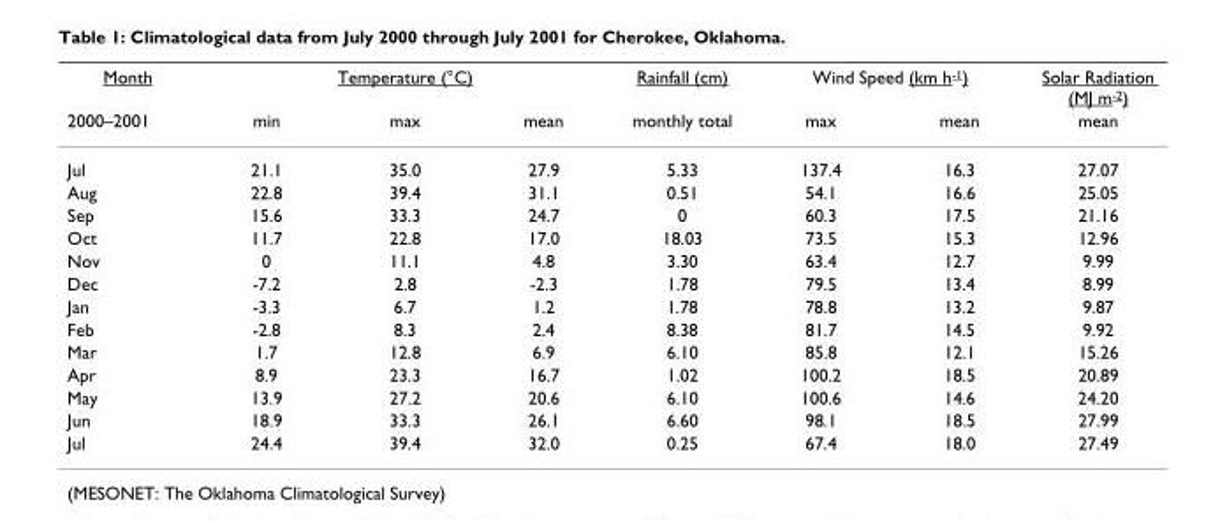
<table><thead><tr><td rowspan="2">Month 2000–2001</td><td colspan="3">Temperature (°C)</td><td rowspan="2">Rainfall (cm) monthly total</td><td colspan="2">Wind Speed (km h<sup>-1</sup>)</td><td rowspan="2">Solar Radiation (MJ m<sup>-2</sup>) mean</td></tr><tr><td>min</td><td>max</td><td>mean</td><td>max</td><td>mean</td></tr></thead><tbody><tr><td>Jul</td><td>21.1</td><td>35.0</td><td>27.9</td><td>5.33</td><td>137.4</td><td>16.3</td><td>27.07</td></tr><tr><td>Aug</td><td>22.8</td><td>39.4</td><td>31.1</td><td>0.51</td><td>54.1</td><td>16.6</td><td>25.05</td></tr><tr><td>Sep</td><td>15.6</td><td>33.3</td><td>24.7</td><td>0</td><td>60.3</td><td>17.5</td><td>21.16</td></tr><tr><td>Oct</td><td>11.7</td><td>22.8</td><td>17.0</td><td>18.03</td><td>73.5</td><td>15.3</td><td>12.96</td></tr><tr><td>Nov</td><td>0</td><td>11.1</td><td>4.8</td><td>3.30</td><td>63.4</td><td>12.7</td><td>9.99</td></tr><tr><td>Dec</td><td>-7.2</td><td>2.8</td><td>-2.3</td><td>1.78</td><td>79.5</td><td>13.4</td><td>8.99</td></tr><tr><td>Jan</td><td>-3.3</td><td>6.7</td><td>1.2</td><td>1.78</td><td>78.8</td><td>13.2</td><td>9.87</td></tr><tr><td>Feb</td><td>-2.8</td><td>8.3</td><td>2.4</td><td>8.38</td><td>81.7</td><td>14.5</td><td>9.92</td></tr><tr><td>Mar</td><td>1.7</td><td>12.8</td><td>6.9</td><td>6.10</td><td>85.8</td><td>12.1</td><td>15.26</td></tr><tr><td>Apr</td><td>8.9</td><td>23.3</td><td>16.7</td><td>1.02</td><td>100.2</td><td>18.5</td><td>20.89</td></tr><tr><td>May</td><td>13.9</td><td>27.2</td><td>20.6</td><td>6.10</td><td>100.6</td><td>14.6</td><td>24.20</td></tr><tr><td>Jun</td><td>18.9</td><td>33.3</td><td>26.1</td><td>6.60</td><td>98.1</td><td>18.5</td><td>27.99</td></tr><tr><td>Jul</td><td>24.4</td><td>39.4</td><td>32.0</td><td>0.25</td><td>67.4</td><td>18.0</td><td>27.49</td></tr></tbody></table>